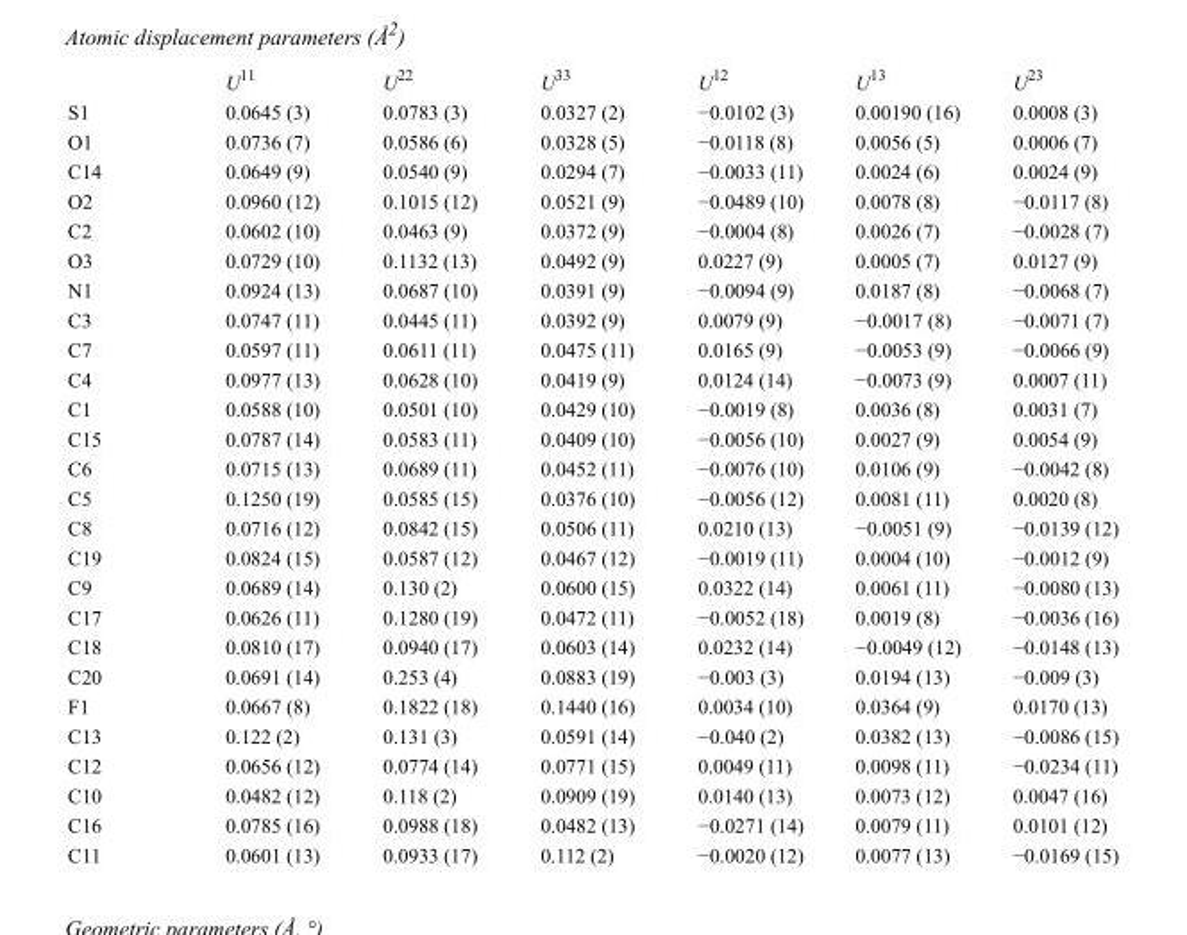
<table><thead><tr><td></td><td>U<sup>11</sup></td><td>U<sup>22</sup></td><td>U<sup>33</sup></td><td>U<sup>12</sup></td><td>U<sup>13</sup></td><td>U<sup>23</sup></td></tr></thead><tbody><tr><td>S1</td><td>0.0645 (3)</td><td>0.0783 (3)</td><td>0.0327 (2)</td><td>−0.0102 (3)</td><td>0.00190 (16)</td><td>0.0008 (3)</td></tr><tr><td>O1</td><td>0.0736 (7)</td><td>0.0586 (6)</td><td>0.0328 (5)</td><td>−0.0118 (8)</td><td>0.0056 (5)</td><td>0.0006 (7)</td></tr><tr><td>C14</td><td>0.0649 (9)</td><td>0.0540 (9)</td><td>0.0294 (7)</td><td>−0.0033 (11)</td><td>0.0024 (6)</td><td>0.0024 (9)</td></tr><tr><td>O2</td><td>0.0960 (12)</td><td>0.1015 (12)</td><td>0.0521 (9)</td><td>−0.0489 (10)</td><td>0.0078 (8)</td><td>−0.0117 (8)</td></tr><tr><td>C2</td><td>0.0602 (10)</td><td>0.0463 (9)</td><td>0.0372 (9)</td><td>−0.0004 (8)</td><td>0.0026 (7)</td><td>−0.0028 (7)</td></tr><tr><td>O3</td><td>0.0729 (10)</td><td>0.1132 (13)</td><td>0.0492 (9)</td><td>0.0227 (9)</td><td>0.0005 (7)</td><td>0.0127 (9)</td></tr><tr><td>N1</td><td>0.0924 (13)</td><td>0.0687 (10)</td><td>0.0391 (9)</td><td>−0.0094 (9)</td><td>0.0187 (8)</td><td>−0.0068 (7)</td></tr><tr><td>C3</td><td>0.0747 (11)</td><td>0.0445 (11)</td><td>0.0392 (9)</td><td>0.0079 (9)</td><td>−0.0017 (8)</td><td>−0.0071 (7)</td></tr><tr><td>C7</td><td>0.0597 (11)</td><td>0.0611 (11)</td><td>0.0475 (11)</td><td>0.0165 (9)</td><td>−0.0053 (9)</td><td>−0.0066 (9)</td></tr><tr><td>C4</td><td>0.0977 (13)</td><td>0.0628 (10)</td><td>0.0419 (9)</td><td>0.0124 (14)</td><td>−0.0073 (9)</td><td>0.0007 (11)</td></tr><tr><td>C1</td><td>0.0588 (10)</td><td>0.0501 (10)</td><td>0.0429 (10)</td><td>−0.0019 (8)</td><td>0.0036 (8)</td><td>0.0031 (7)</td></tr><tr><td>C15</td><td>0.0787 (14)</td><td>0.0583 (11)</td><td>0.0409 (10)</td><td>−0.0056 (10)</td><td>0.0027 (9)</td><td>0.0054 (9)</td></tr><tr><td>C6</td><td>0.0715 (13)</td><td>0.0689 (11)</td><td>0.0452 (11)</td><td>−0.0076 (10)</td><td>0.0106 (9)</td><td>−0.0042 (8)</td></tr><tr><td>C5</td><td>0.1250 (19)</td><td>0.0585 (15)</td><td>0.0376 (10)</td><td>−0.0056 (12)</td><td>0.0081 (11)</td><td>0.0020 (8)</td></tr><tr><td>C8</td><td>0.0716 (12)</td><td>0.0842 (15)</td><td>0.0506 (11)</td><td>0.0210 (13)</td><td>−0.0051 (9)</td><td>−0.0139 (12)</td></tr><tr><td>C19</td><td>0.0824 (15)</td><td>0.0587 (12)</td><td>0.0467 (12)</td><td>−0.0019 (11)</td><td>0.0004 (10)</td><td>−0.0012 (9)</td></tr><tr><td>C9</td><td>0.0689 (14)</td><td>0.130 (2)</td><td>0.0600 (15)</td><td>0.0322 (14)</td><td>0.0061 (11)</td><td>−0.0080 (13)</td></tr><tr><td>C17</td><td>0.0626 (11)</td><td>0.1280 (19)</td><td>0.0472 (11)</td><td>−0.0052 (18)</td><td>0.0019 (8)</td><td>−0.0036 (16)</td></tr><tr><td>C18</td><td>0.0810 (17)</td><td>0.0940 (17)</td><td>0.0603 (14)</td><td>0.0232 (14)</td><td>−0.0049 (12)</td><td>−0.0148 (13)</td></tr><tr><td>C20</td><td>0.0691 (14)</td><td>0.253 (4)</td><td>0.0883 (19)</td><td>−0.003 (3)</td><td>0.0194 (13)</td><td>−0.009 (3)</td></tr><tr><td>F1</td><td>0.0667 (8)</td><td>0.1822 (18)</td><td>0.1440 (16)</td><td>0.0034 (10)</td><td>0.0364 (9)</td><td>0.0170 (13)</td></tr><tr><td>C13</td><td>0.122 (2)</td><td>0.131 (3)</td><td>0.0591 (14)</td><td>−0.040 (2)</td><td>0.0382 (13)</td><td>−0.0086 (15)</td></tr><tr><td>C12</td><td>0.0656 (12)</td><td>0.0774 (14)</td><td>0.0771 (15)</td><td>0.0049 (11)</td><td>0.0098 (11)</td><td>−0.0234 (11)</td></tr><tr><td>C10</td><td>0.0482 (12)</td><td>0.118 (2)</td><td>0.0909 (19)</td><td>0.0140 (13)</td><td>0.0073 (12)</td><td>0.0047 (16)</td></tr><tr><td>C16</td><td>0.0785 (16)</td><td>0.0988 (18)</td><td>0.0482 (13)</td><td>−0.0271 (14)</td><td>0.0079 (11)</td><td>0.0101 (12)</td></tr><tr><td>C11</td><td>0.0601 (13)</td><td>0.0933 (17)</td><td>0.112 (2)</td><td>−0.0020 (12)</td><td>0.0077 (13)</td><td>−0.0169 (15)</td></tr></tbody></table>